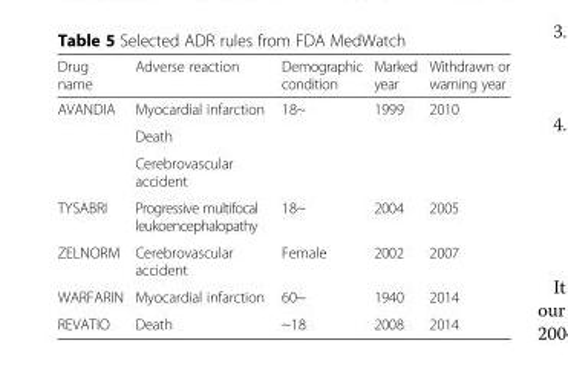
<table><thead><tr><td>Drug name</td><td>Adverse reaction</td><td>Demographic condition</td><td>Marked year</td><td>Withdrawn or warning year</td></tr></thead><tbody><tr><td rowspan="3">AVANDIA</td><td>Myocardial infarction</td><td rowspan="3">18~</td><td rowspan="3">1999</td><td rowspan="3">2010</td></tr><tr><td>Death</td></tr><tr><td>Cerebrovascular accident</td></tr><tr><td>TYSABRI</td><td>Progressive multifocal leukoencephalopathy</td><td>18~</td><td>2004</td><td>2005</td></tr><tr><td>ZELNORM</td><td>Cerebrovascular accident</td><td>Female</td><td>2002</td><td>2007</td></tr><tr><td>WARFARIN</td><td>Myocardial infarction</td><td>60~</td><td>1940</td><td>2014</td></tr><tr><td>REVATIO</td><td>Death</td><td>~18</td><td>2008</td><td>2014</td></tr></tbody></table>